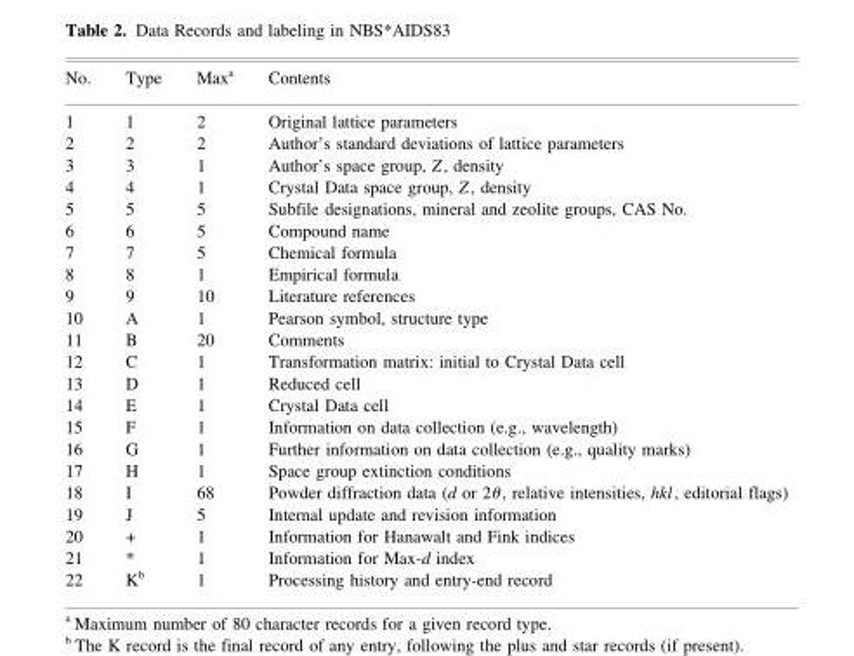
<table><thead><tr><td>No.</td><td>Type</td><td>Max<sup>a</sup></td><td>Contents</td></tr></thead><tbody><tr><td>1</td><td>1</td><td>2</td><td>Original lattice parameters</td></tr><tr><td>2</td><td>2</td><td>2</td><td>Author’s standard deviations of lattice parameters</td></tr><tr><td>3</td><td>3</td><td>1</td><td>Author’s space group, Z, density</td></tr><tr><td>4</td><td>4</td><td>1</td><td>Crystal Data space group, Z, density</td></tr><tr><td>5</td><td>5</td><td>5</td><td>Subfile designations, mineral and zeolite groups, CAS No.</td></tr><tr><td>6</td><td>6</td><td>5</td><td>Compound name</td></tr><tr><td>7</td><td>7</td><td>5</td><td>Chemical formula</td></tr><tr><td>8</td><td>8</td><td>1</td><td>Empirical formula</td></tr><tr><td>9</td><td>9</td><td>10</td><td>Literature references</td></tr><tr><td>10</td><td>A</td><td>1</td><td>Pearson symbol, structure type</td></tr><tr><td>11</td><td>B</td><td>20</td><td>Comments</td></tr><tr><td>12</td><td>C</td><td>1</td><td>Transformation matrix: initial to Crystal Data cell</td></tr><tr><td>13</td><td>D</td><td>1</td><td>Reduced cell</td></tr><tr><td>14</td><td>E</td><td>1</td><td>Crystal Data cell</td></tr><tr><td>15</td><td>F</td><td>1</td><td>Information on data collection (e.g., wavelength)</td></tr><tr><td>16</td><td>G</td><td>1</td><td>Further information on data collection (e.g., quality marks)</td></tr><tr><td>17</td><td>H</td><td>1</td><td>Space group extinction conditions</td></tr><tr><td>18</td><td>I</td><td>68</td><td>Powder diffraction data (d or 2θ, relative intensities, hkl, editorial flags)</td></tr><tr><td>19</td><td>J</td><td>5</td><td>Internal update and revision information</td></tr><tr><td>20</td><td>+</td><td>1</td><td>Information for Hanawalt and Fink indices</td></tr><tr><td>21</td><td>*</td><td>1</td><td>Information for Max-d index</td></tr><tr><td>22</td><td>K<sup>b</sup></td><td>1</td><td>Processing history and entry-end record</td></tr></tbody></table>